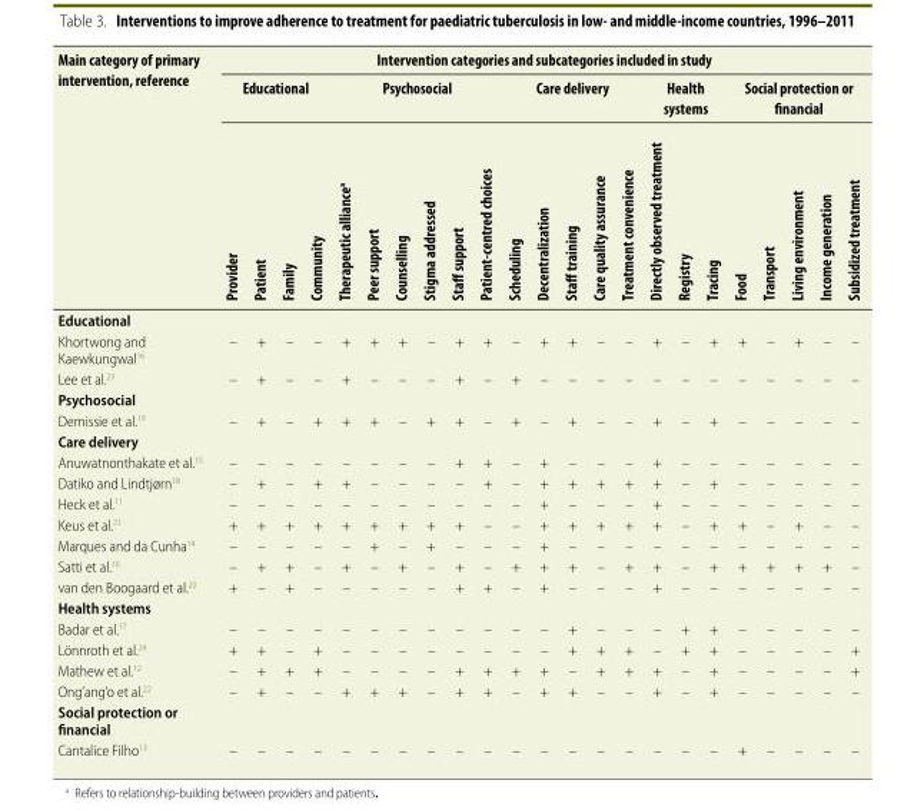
<table><thead><tr><td rowspan="3">Main category of primary intervention, reference</td><td colspan="23">Intervention categories and subcategories included in study</td></tr><tr><td colspan="4">Educational</td><td colspan="6">Psychosocial</td><td colspan="5">Care delivery</td><td colspan="3">Health systems</td><td colspan="5">Social protection or financial</td></tr><tr><td>Provider</td><td>Patient</td><td>Family</td><td>Community</td><td>Therapeutic alliance<sup>a</sup></td><td>Peer support</td><td>Counselling</td><td>Stigma addressed</td><td>Staff support</td><td>Patient-centred choices</td><td>Scheduling</td><td>Decentralization</td><td>Staff training</td><td>Care quality assurance</td><td>Treatment convenience</td><td>Directly observed treatment</td><td>Registry</td><td>Tracing</td><td>Food</td><td>Transport</td><td>Living environment</td><td>Income generation</td><td>Subsidized treatment</td></tr></thead><tbody><tr><td colspan="24">Educational</td></tr><tr><td>Khortwong and Kaewkungwal<sup>16</sup></td><td>–</td><td>+</td><td>–</td><td>–</td><td>+</td><td>+</td><td>+</td><td>–</td><td>+</td><td>+</td><td>–</td><td>+</td><td>+</td><td>–</td><td>–</td><td>+</td><td>–</td><td>+</td><td>+</td><td>–</td><td>+</td><td>–</td><td>–</td></tr><tr><td>Lee et al.<sup>23</sup></td><td>–</td><td>+</td><td>–</td><td>–</td><td>+</td><td>–</td><td>–</td><td>–</td><td>+</td><td>–</td><td>+</td><td>–</td><td>–</td><td>–</td><td>–</td><td>–</td><td>–</td><td>–</td><td>–</td><td>–</td><td>–</td><td>–</td><td>–</td></tr><tr><td colspan="24">Psychosocial</td></tr><tr><td>Demissie et al.<sup>19</sup></td><td>–</td><td>+</td><td>–</td><td>+</td><td>+</td><td>+</td><td>–</td><td>+</td><td>+</td><td>–</td><td>+</td><td>–</td><td>+</td><td>–</td><td>–</td><td>+</td><td>–</td><td>+</td><td>–</td><td>–</td><td>–</td><td>–</td><td>–</td></tr><tr><td colspan="24">Care delivery</td></tr><tr><td>Anuwatnonthakate et al.<sup>15</sup></td><td>–</td><td>–</td><td>–</td><td>–</td><td>–</td><td>–</td><td>–</td><td>–</td><td>+</td><td>+</td><td>–</td><td>+</td><td>–</td><td>–</td><td>–</td><td>+</td><td>–</td><td>–</td><td>–</td><td>–</td><td>–</td><td>–</td><td>–</td></tr><tr><td>Datiko and Lindtjørn<sup>18</sup></td><td>–</td><td>+</td><td>–</td><td>+</td><td>+</td><td>–</td><td>–</td><td>–</td><td>–</td><td>+</td><td>–</td><td>+</td><td>+</td><td>+</td><td>+</td><td>+</td><td>–</td><td>+</td><td>–</td><td>–</td><td>–</td><td>–</td><td>–</td></tr><tr><td>Heck et al.<sup>11</sup></td><td>–</td><td>–</td><td>–</td><td>–</td><td>–</td><td>–</td><td>–</td><td>–</td><td>–</td><td>–</td><td>–</td><td>+</td><td>–</td><td>–</td><td>–</td><td>+</td><td>–</td><td>–</td><td>–</td><td>–</td><td>–</td><td>–</td><td>–</td></tr><tr><td>Keus et al.<sup>21</sup></td><td>+</td><td>+</td><td>+</td><td>+</td><td>+</td><td>+</td><td>+</td><td>+</td><td>+</td><td>–</td><td>–</td><td>+</td><td>+</td><td>+</td><td>+</td><td>+</td><td>–</td><td>+</td><td>+</td><td>–</td><td>+</td><td>–</td><td>–</td></tr><tr><td>Marques and da Cunha<sup>14</sup></td><td>–</td><td>–</td><td>–</td><td>–</td><td>–</td><td>+</td><td>–</td><td>+</td><td>–</td><td>–</td><td>–</td><td>+</td><td>–</td><td>–</td><td>–</td><td>–</td><td>–</td><td>–</td><td>–</td><td>–</td><td>–</td><td>–</td><td>–</td></tr><tr><td>Satti et al.<sup>10</sup></td><td>–</td><td>+</td><td>+</td><td>–</td><td>+</td><td>–</td><td>+</td><td>–</td><td>+</td><td>–</td><td>+</td><td>+</td><td>+</td><td>–</td><td>+</td><td>+</td><td>–</td><td>+</td><td>+</td><td>+</td><td>+</td><td>+</td><td>–</td></tr><tr><td>van den Boogaard et al.<sup>20</sup></td><td>+</td><td>–</td><td>+</td><td>–</td><td>–</td><td>–</td><td>–</td><td>–</td><td>+</td><td>+</td><td>–</td><td>+</td><td>–</td><td>–</td><td>–</td><td>+</td><td>–</td><td>–</td><td>–</td><td>–</td><td>–</td><td>–</td><td>–</td></tr><tr><td colspan="24">Health systems</td></tr><tr><td>Badar et al.<sup>17</sup></td><td>–</td><td>–</td><td>–</td><td>–</td><td>–</td><td>–</td><td>–</td><td>–</td><td>–</td><td>–</td><td>–</td><td>–</td><td>+</td><td>–</td><td>–</td><td>–</td><td>+</td><td>+</td><td>–</td><td>–</td><td>–</td><td>–</td><td>–</td></tr><tr><td>Lönnroth et al.<sup>24</sup></td><td>+</td><td>+</td><td>–</td><td>+</td><td>–</td><td>–</td><td>–</td><td>–</td><td>–</td><td>–</td><td>–</td><td>–</td><td>+</td><td>+</td><td>+</td><td>–</td><td>+</td><td>+</td><td>–</td><td>–</td><td>–</td><td>–</td><td>+</td></tr><tr><td>Mathew et al.<sup>12</sup></td><td>–</td><td>+</td><td>+</td><td>+</td><td>–</td><td>–</td><td>–</td><td>–</td><td>+</td><td>+</td><td>+</td><td>+</td><td>–</td><td>+</td><td>+</td><td>+</td><td>–</td><td>+</td><td>–</td><td>–</td><td>–</td><td>–</td><td>+</td></tr><tr><td>Ong’ang’o et al.<sup>22</sup></td><td>–</td><td>+</td><td>–</td><td>–</td><td>+</td><td>+</td><td>+</td><td>–</td><td>+</td><td>+</td><td>–</td><td>+</td><td>+</td><td>–</td><td>–</td><td>+</td><td>–</td><td>+</td><td>–</td><td>–</td><td>–</td><td>–</td><td>–</td></tr><tr><td colspan="24">Social protection or financial</td></tr><tr><td>Cantalice Filho<sup>13</sup></td><td>–</td><td>–</td><td>–</td><td>–</td><td>–</td><td>–</td><td>–</td><td>–</td><td>–</td><td>–</td><td>–</td><td>–</td><td>–</td><td>–</td><td>–</td><td>–</td><td>–</td><td>–</td><td>+</td><td>–</td><td>–</td><td>–</td><td>–</td></tr></tbody></table>